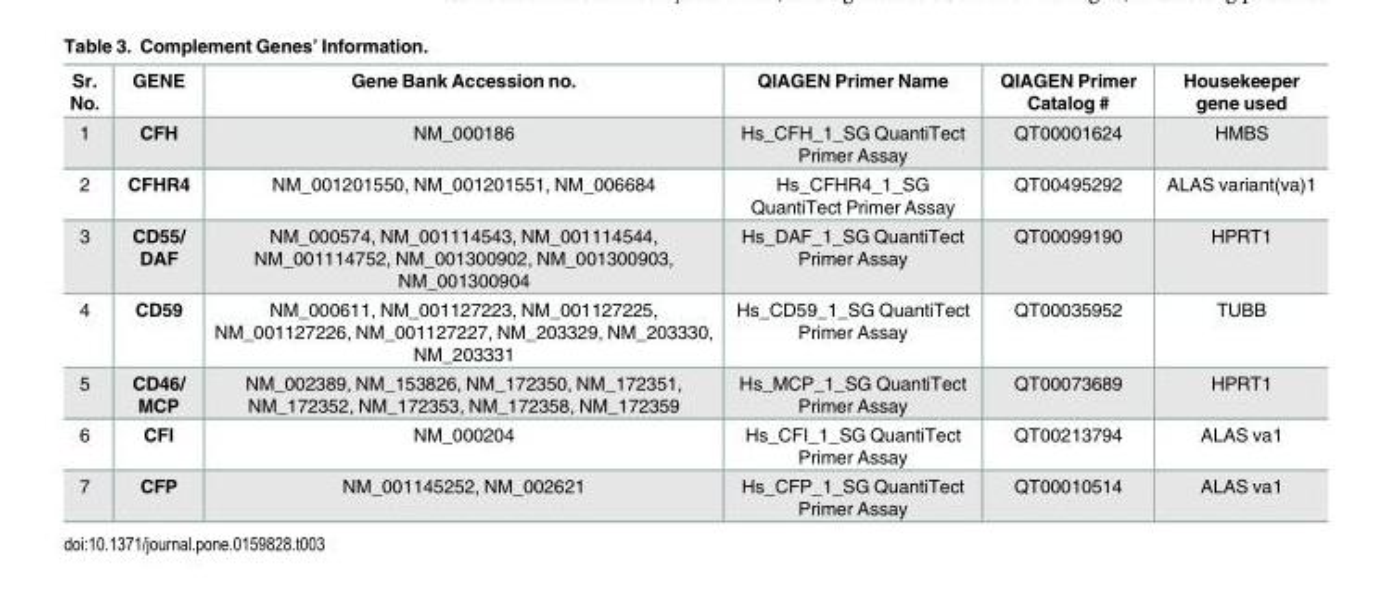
<table><thead><tr><td>Sr. No.</td><td>GENE</td><td>Gene Bank Accession no.</td><td>QIAGEN Primer Name</td><td>QIAGEN Primer Catalog #</td><td>Housekeeper gene used</td></tr></thead><tbody><tr><td>1</td><td>CFH</td><td>NM_000186</td><td>Hs_CFH_1_SG QuantiTect Primer Assay</td><td>QT00001624</td><td>HMBS</td></tr><tr><td>2</td><td>CFHR4</td><td>NM_001201550, NM_001201551, NM_006684</td><td>Hs_CFHR4_1_SG QuantiTect Primer Assay</td><td>QT00495292</td><td>ALAS variant(va)1</td></tr><tr><td>3</td><td>CD55/ DAF</td><td>NM_000574, NM_001114543, NM_001114544, NM_001114752, NM_001300902, NM_001300903, NM_001300904</td><td>Hs_DAF_1_SG QuantiTect Primer Assay</td><td>QT00099190</td><td>HPRT1</td></tr><tr><td>4</td><td>CD59</td><td>NM_000611, NM_001127223, NM_001127225, NM_001127226, NM_001127227, NM_203329, NM_203330, NM_203331</td><td>Hs_CD59_1_SG QuantiTect Primer Assay</td><td>QT00035952</td><td>TUBB</td></tr><tr><td>5</td><td>CD46/ MCP</td><td>NM_002389, NM_153826, NM_172350, NM_172351, NM_172352, NM_172353, NM_172358, NM_172359</td><td>Hs_MCP_1_SG QuantiTect Primer Assay</td><td>QT00073689</td><td>HPRT1</td></tr><tr><td>6</td><td>CFI</td><td>NM_000204</td><td>Hs_CFI_1_SG QuantiTect Primer Assay</td><td>QT00213794</td><td>ALAS va1</td></tr><tr><td>7</td><td>CFP</td><td>NM_001145252, NM_002621</td><td>Hs_CFP_1_SG QuantiTect Primer Assay</td><td>QT00010514</td><td>ALAS va1</td></tr></tbody></table>